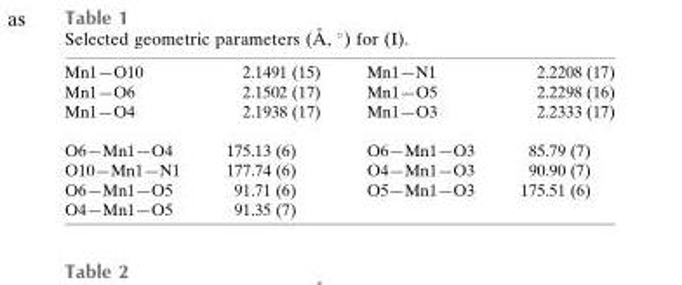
<table><tbody><tr><td>Mn1—O10</td><td>2.1491 (15)</td><td>Mn1—N1</td><td>2.2208 (17)</td></tr><tr><td>Mn1—O6</td><td>2.1502 (17)</td><td>Mn1—O5</td><td>2.2298 (16)</td></tr><tr><td>Mn1—O4</td><td>2.1938 (17)</td><td>Mn1—O3</td><td>2.2333 (17)</td></tr><tr><td>O6—Mn1—O4</td><td>175.13 (6)</td><td>O6—Mn1—O3</td><td>85.79 (7)</td></tr><tr><td>O10—Mn1—N1</td><td>177.74 (6)</td><td>O4—Mn1—O3</td><td>90.90 (7)</td></tr><tr><td>O6—Mn1—O5</td><td>91.71 (6)</td><td>O5—Mn1—O3</td><td>175.51 (6)</td></tr><tr><td>O4—Mn1—O5</td><td>91.35 (7)</td><td></td><td></td></tr></tbody></table>